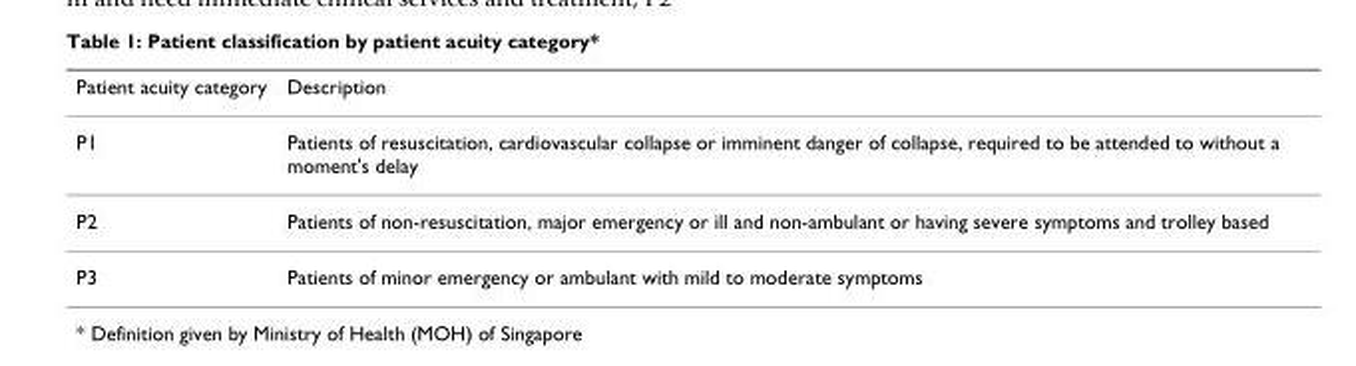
<table><thead><tr><td>Patient acuity category</td><td>Description</td></tr></thead><tbody><tr><td>P1</td><td>Patients of resuscitation, cardiovascular collapse or imminent danger of collapse, required to be attended to without a moment&#x27;s delay</td></tr><tr><td>P2</td><td>Patients of non-resuscitation, major emergency or ill and non-ambulant or having severe symptoms and trolley based</td></tr><tr><td>P3</td><td>Patients of minor emergency or ambulant with mild to moderate symptoms</td></tr></tbody></table>